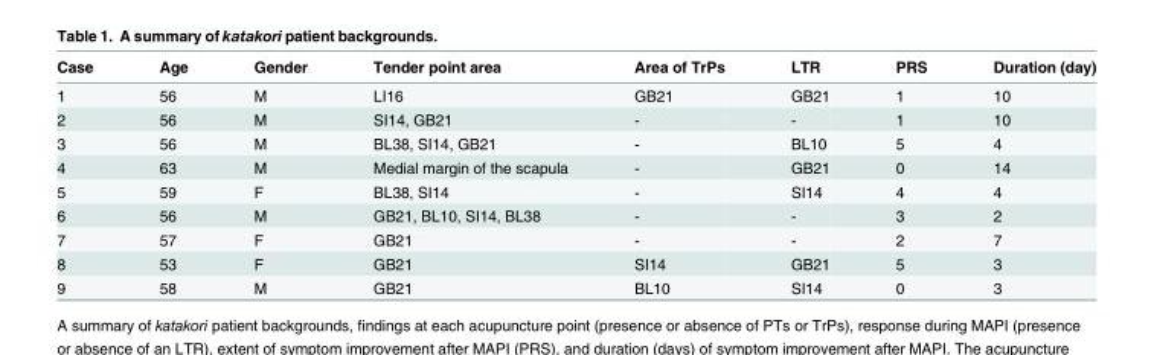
<table><thead><tr><td>Case</td><td>Age</td><td>Gender</td><td>Tender point area</td><td>Area of TrPs</td><td>LTR</td><td>PRS</td><td>Duration (day)</td></tr></thead><tbody><tr><td>1</td><td>56</td><td>M</td><td>LI16</td><td>GB21</td><td>GB21</td><td>1</td><td>10</td></tr><tr><td>2</td><td>56</td><td>M</td><td>SI14, GB21</td><td>-</td><td>-</td><td>1</td><td>10</td></tr><tr><td>3</td><td>56</td><td>M</td><td>BL38, SI14, GB21</td><td>-</td><td>BL10</td><td>5</td><td>4</td></tr><tr><td>4</td><td>63</td><td>M</td><td>Medial margin of the scapula</td><td>-</td><td>GB21</td><td>0</td><td>14</td></tr><tr><td>5</td><td>59</td><td>F</td><td>BL38, SI14</td><td>-</td><td>SI14</td><td>4</td><td>4</td></tr><tr><td>6</td><td>56</td><td>M</td><td>GB21, BL10, SI14, BL38</td><td>-</td><td>-</td><td>3</td><td>2</td></tr><tr><td>7</td><td>57</td><td>F</td><td>GB21</td><td>-</td><td>-</td><td>2</td><td>7</td></tr><tr><td>8</td><td>53</td><td>F</td><td>GB21</td><td>SI14</td><td>GB21</td><td>5</td><td>3</td></tr><tr><td>9</td><td>58</td><td>M</td><td>GB21</td><td>BL10</td><td>SI14</td><td>0</td><td>3</td></tr></tbody></table>